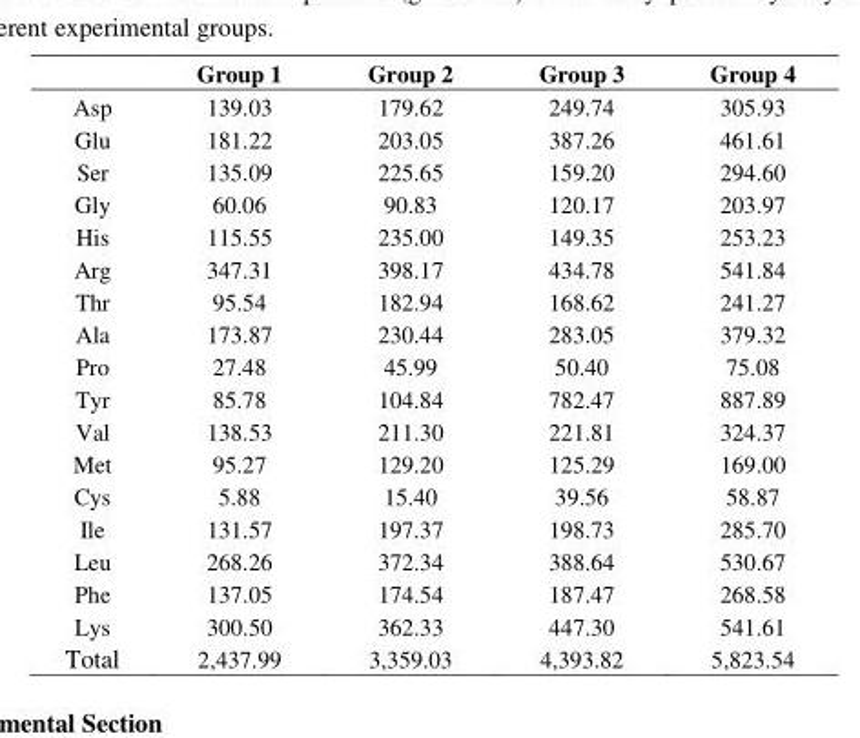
<table><thead><tr><td></td><td>Group 1</td><td>Group 2</td><td>Group 3</td><td>Group 4</td></tr></thead><tbody><tr><td>Asp</td><td>139.03</td><td>179.62</td><td>249.74</td><td>305.93</td></tr><tr><td>Glu</td><td>181.22</td><td>203.05</td><td>387.26</td><td>461.61</td></tr><tr><td>Ser</td><td>135.09</td><td>225.65</td><td>159.20</td><td>294.60</td></tr><tr><td>Gly</td><td>60.06</td><td>90.83</td><td>120.17</td><td>203.97</td></tr><tr><td>His</td><td>115.55</td><td>235.00</td><td>149.35</td><td>253.23</td></tr><tr><td>Arg</td><td>347.31</td><td>398.17</td><td>434.78</td><td>541.84</td></tr><tr><td>Thr</td><td>95.54</td><td>182.94</td><td>168.62</td><td>241.27</td></tr><tr><td>Ala</td><td>173.87</td><td>230.44</td><td>283.05</td><td>379.32</td></tr><tr><td>Pro</td><td>27.48</td><td>45.99</td><td>50.40</td><td>75.08</td></tr><tr><td>Tyr</td><td>85.78</td><td>104.84</td><td>782.47</td><td>887.89</td></tr><tr><td>Val</td><td>138.53</td><td>211.30</td><td>221.81</td><td>324.37</td></tr><tr><td>Met</td><td>95.27</td><td>129.20</td><td>125.29</td><td>169.00</td></tr><tr><td>Cys</td><td>5.88</td><td>15.40</td><td>39.56</td><td>58.87</td></tr><tr><td>Ile</td><td>131.57</td><td>197.37</td><td>198.73</td><td>285.70</td></tr><tr><td>Leu</td><td>268.26</td><td>372.34</td><td>388.64</td><td>530.67</td></tr><tr><td>Phe</td><td>137.05</td><td>174.54</td><td>187.47</td><td>268.58</td></tr><tr><td>Lys</td><td>300.50</td><td>362.33</td><td>447.30</td><td>541.61</td></tr><tr><td>Total</td><td>2,437.99</td><td>3,359.03</td><td>4,393.82</td><td>5,823.54</td></tr></tbody></table>